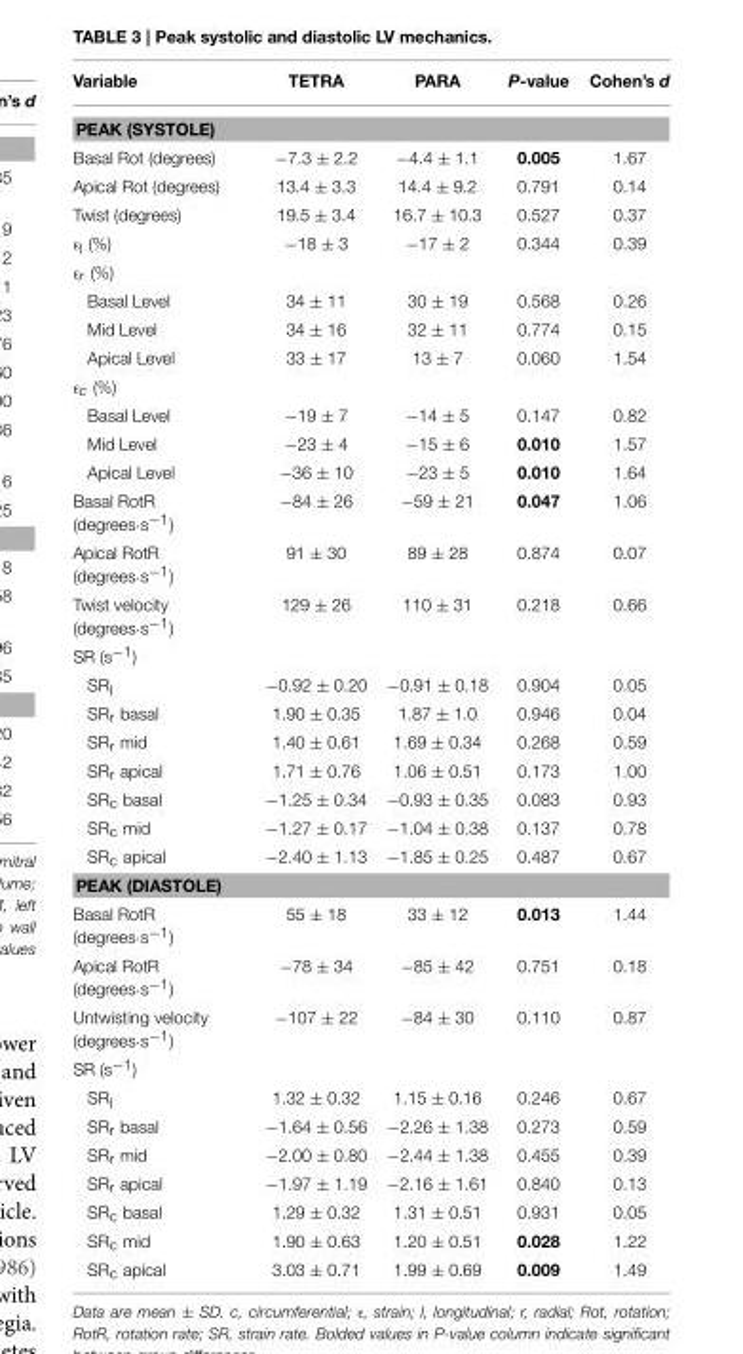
<table><thead><tr><td>Variable</td><td>TETRA</td><td>PARA</td><td>P-value</td><td>Cohen’s d</td></tr></thead><tbody><tr><td colspan="5">PEAK (SYSTOLE)</td></tr><tr><td>Basal Rot (degrees)</td><td>−7.3 ± 2.2</td><td>−4.4 ± 1.1</td><td>0.005</td><td>1.67</td></tr><tr><td>Apical Rot (degrees)</td><td>13.4 ± 3.3</td><td>14.4 ± 9.2</td><td>0.791</td><td>0.14</td></tr><tr><td>Twist (degrees)</td><td>19.5 ± 3.4</td><td>16.7 ± 10.3</td><td>0.527</td><td>0.37</td></tr><tr><td>ε<sub>l</sub> (%)</td><td>−18 ± 3</td><td>−17 ± 2</td><td>0.344</td><td>0.39</td></tr><tr><td colspan="5">ε<sub>r</sub> (%)</td></tr><tr><td>Basal Level</td><td>34 ± 11</td><td>30 ± 19</td><td>0.568</td><td>0.26</td></tr><tr><td>Mid Level</td><td>34 ± 16</td><td>32 ± 11</td><td>0.774</td><td>0.15</td></tr><tr><td>Apical Level</td><td>33 ± 17</td><td>13 ± 7</td><td>0.060</td><td>1.54</td></tr><tr><td colspan="5">ε<sub>c</sub> (%)</td></tr><tr><td>Basal Level</td><td>−19 ± 7</td><td>−14 ± 5</td><td>0.147</td><td>0.82</td></tr><tr><td>Mid Level</td><td>−23 ± 4</td><td>−15 ± 6</td><td>0.010</td><td>1.57</td></tr><tr><td>Apical Level</td><td>−36 ± 10</td><td>−23 ± 5</td><td>0.010</td><td>1.64</td></tr><tr><td>Basal RotR (degrees·s<sup>−1</sup>)</td><td>−84 ± 26</td><td>−59 ± 21</td><td>0.047</td><td>1.06</td></tr><tr><td>Apical RotR (degrees·s<sup>−1</sup>)</td><td>91 ± 30</td><td>89 ± 28</td><td>0.874</td><td>0.07</td></tr><tr><td>Twist velocity (degrees·s<sup>−1</sup>)</td><td>129 ± 26</td><td>110 ± 31</td><td>0.218</td><td>0.66</td></tr><tr><td colspan="5">SR (s<sup>−1</sup>)</td></tr><tr><td>SR<sub>l</sub></td><td>−0.92 ± 0.20</td><td>−0.91 ± 0.18</td><td>0.904</td><td>0.05</td></tr><tr><td>SR<sub>r</sub> basal</td><td>1.90 ± 0.35</td><td>1.87 ± 1.0</td><td>0.946</td><td>0.04</td></tr><tr><td>SR<sub>r</sub> mid</td><td>1.40 ± 0.61</td><td>1.69 ± 0.34</td><td>0.268</td><td>0.59</td></tr><tr><td>SR<sub>r</sub> apical</td><td>1.71 ± 0.76</td><td>1.06 ± 0.51</td><td>0.173</td><td>1.00</td></tr><tr><td>SR<sub>c</sub> basal</td><td>−1.25 ± 0.34</td><td>−0.93 ± 0.35</td><td>0.083</td><td>0.93</td></tr><tr><td>SR<sub>c</sub> mid</td><td>−1.27 ± 0.17</td><td>−1.04 ± 0.38</td><td>0.137</td><td>0.78</td></tr><tr><td>SR<sub>c</sub> apical</td><td>−2.40 ± 1.13</td><td>−1.85 ± 0.25</td><td>0.487</td><td>0.67</td></tr><tr><td colspan="5">PEAK (DIASTOLE)</td></tr><tr><td>Basal RotR (degrees·s<sup>−1</sup>)</td><td>55 ± 18</td><td>33 ± 12</td><td>0.013</td><td>1.44</td></tr><tr><td>Apical RotR (degrees·s<sup>−1</sup>)</td><td>−78 ± 34</td><td>−85 ± 42</td><td>0.751</td><td>0.18</td></tr><tr><td>Untwisting velocity (degrees·s<sup>−1</sup>)</td><td>−107 ± 22</td><td>−84 ± 30</td><td>0.110</td><td>0.87</td></tr><tr><td colspan="5">SR (s<sup>−1</sup>)</td></tr><tr><td>SR<sub>l</sub></td><td>1.32 ± 0.32</td><td>1.15 ± 0.16</td><td>0.246</td><td>0.67</td></tr><tr><td>SR<sub>r</sub> basal</td><td>−1.64 ± 0.56</td><td>−2.26 ± 1.38</td><td>0.273</td><td>0.59</td></tr><tr><td>SR<sub>r</sub> mid</td><td>−2.00 ± 0.80</td><td>−2.44 ± 1.38</td><td>0.455</td><td>0.39</td></tr><tr><td>SR<sub>r</sub> apical</td><td>−1.97 ± 1.19</td><td>−2.16 ± 1.61</td><td>0.840</td><td>0.13</td></tr><tr><td>SR<sub>c</sub> basal</td><td>1.29 ± 0.32</td><td>1.31 ± 0.51</td><td>0.931</td><td>0.05</td></tr><tr><td>SR<sub>c</sub> mid</td><td>1.90 ± 0.63</td><td>1.20 ± 0.51</td><td>0.028</td><td>1.22</td></tr><tr><td>SR<sub>c</sub> apical</td><td>3.03 ± 0.71</td><td>1.99 ± 0.69</td><td>0.009</td><td>1.49</td></tr></tbody></table>